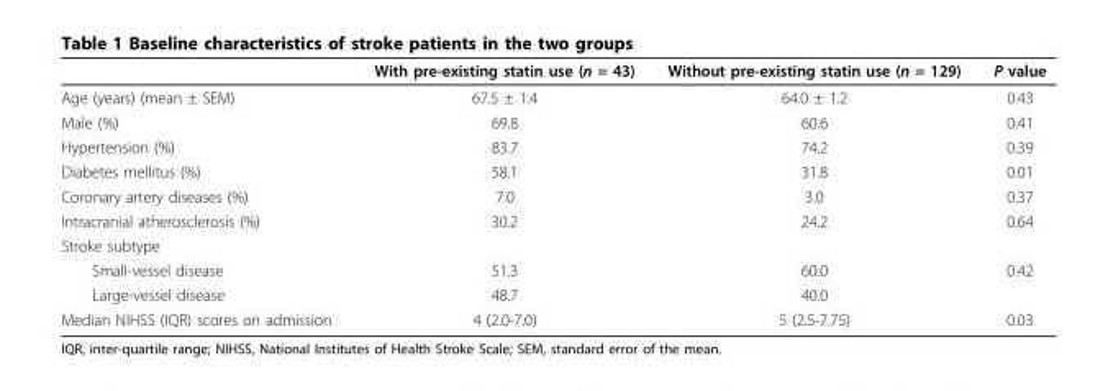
<table><thead><tr><td></td><td>With pre-existing statin use (n = 43)</td><td>Without pre-existing statin use (n = 129)</td><td>P value</td></tr></thead><tbody><tr><td>Age (years) (mean ± SEM)</td><td>67.5 ± 1.4</td><td>64.0 ± 1.2</td><td>0.43</td></tr><tr><td>Male (%)</td><td>69.8</td><td>60.6</td><td>0.41</td></tr><tr><td>Hypertension (%)</td><td>83.7</td><td>74.2</td><td>0.39</td></tr><tr><td>Diabetes mellitus (%)</td><td>58.1</td><td>31.8</td><td>0.01</td></tr><tr><td>Coronary artery diseases (%)</td><td>7.0</td><td>3.0</td><td>0.37</td></tr><tr><td>Intracranial atherosclerosis (%)</td><td>30.2</td><td>24.2</td><td>0.64</td></tr><tr><td colspan="4">Stroke subtype</td></tr><tr><td>Small-vessel disease</td><td>51.3</td><td>60.0</td><td>0.42</td></tr><tr><td>Large-vessel disease</td><td>48.7</td><td>40.0</td><td></td></tr><tr><td>Median NIHSS (IQR) scores on admission</td><td>4 (2.0-7.0)</td><td>5 (2.5-7.75)</td><td>0.03</td></tr></tbody></table>